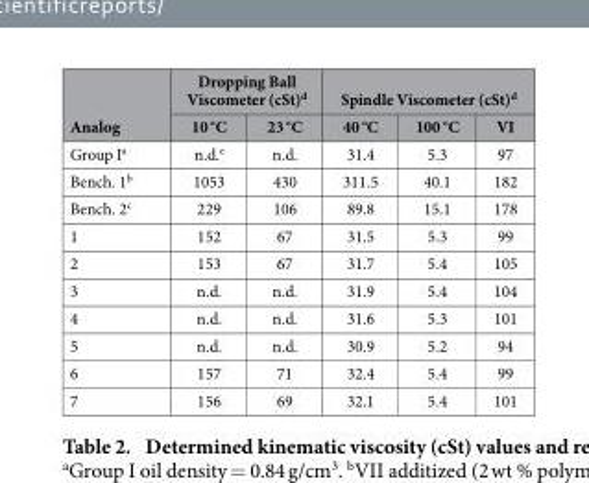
<table><thead><tr><td rowspan="2">Analog</td><td colspan="2">Dropping Ball Viscometer (cSt)<sup>d</sup></td><td colspan="3">Spindle Viscometer (cSt)<sup>d</sup></td></tr><tr><td>10 °C</td><td>23 °C</td><td>40 °C</td><td>100 °C</td><td>VI</td></tr></thead><tbody><tr><td>Group I<sup>a</sup></td><td>n.d.<sup>e</sup></td><td>n.d.</td><td>31.4</td><td>5.3</td><td>97</td></tr><tr><td>Bench. 1<sup>b</sup></td><td>1053</td><td>430</td><td>311.5</td><td>40.1</td><td>182</td></tr><tr><td>Bench. 2<sup>c</sup></td><td>229</td><td>106</td><td>89.8</td><td>15.1</td><td>178</td></tr><tr><td>1</td><td>152</td><td>67</td><td>31.5</td><td>5.3</td><td>99</td></tr><tr><td>2</td><td>153</td><td>67</td><td>31.7</td><td>5.4</td><td>105</td></tr><tr><td>3</td><td>n.d.</td><td>n.d.</td><td>31.9</td><td>5.4</td><td>104</td></tr><tr><td>4</td><td>n.d.</td><td>n.d.</td><td>31.6</td><td>5.3</td><td>101</td></tr><tr><td>5</td><td>n.d.</td><td>n.d.</td><td>30.9</td><td>5.2</td><td>94</td></tr><tr><td>6</td><td>157</td><td>71</td><td>32.4</td><td>5.4</td><td>99</td></tr><tr><td>7</td><td>156</td><td>69</td><td>32.1</td><td>5.4</td><td>101</td></tr></tbody></table>